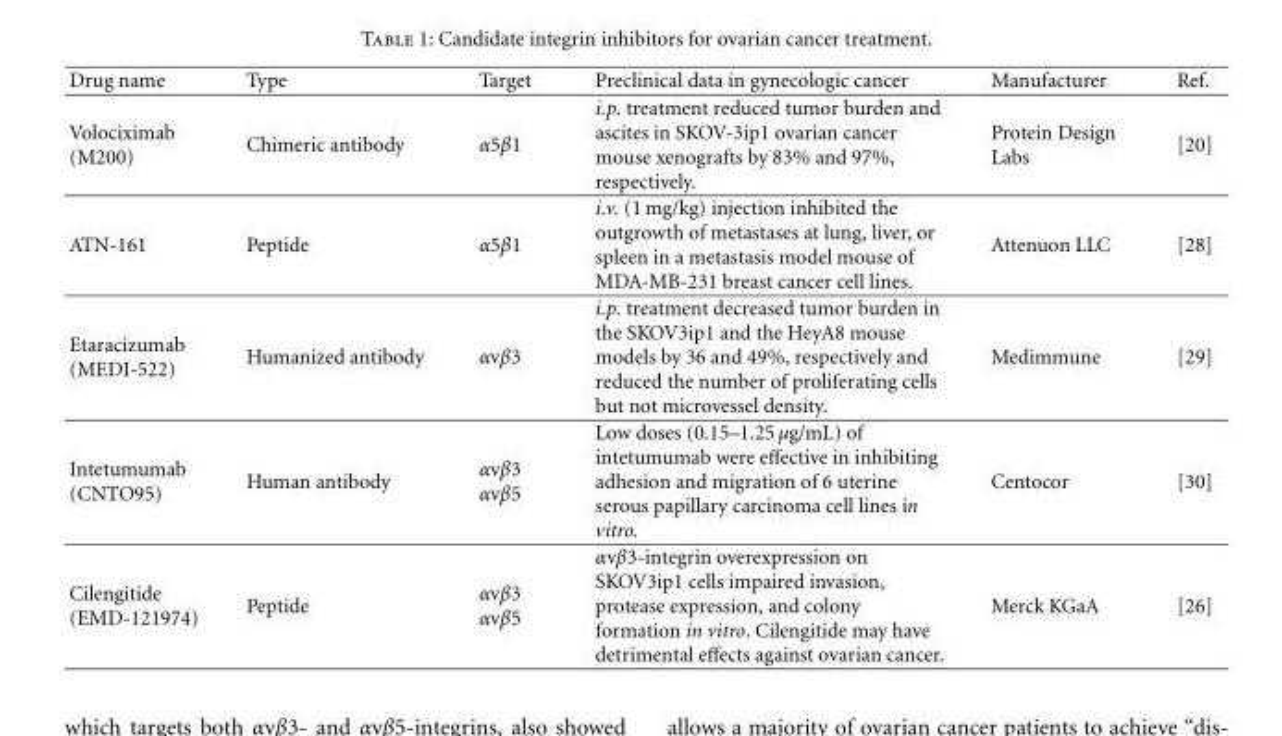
<table><thead><tr><td>Drug name</td><td>Type</td><td>Target</td><td>Preclinical data in gynecologic cancer</td><td>Manufacturer</td><td>Ref.</td></tr></thead><tbody><tr><td>Volociximab (M200)</td><td>Chimeric antibody</td><td>α5β1</td><td>i.p. treatment reduced tumor burden and ascites in SKOV-3ip1 ovarian cancer mouse xenografts by 83% and 97%, respectively.</td><td>Protein Design Labs</td><td>[20]</td></tr><tr><td>ATN-161</td><td>Peptide</td><td>α5β1</td><td>i.v. (1 mg/kg) injection inhibited the outgrowth of metastases at lung, liver, or spleen in a metastasis model mouse of MDA-MB-231 breast cancer cell lines.</td><td>Attenuon LLC</td><td>[28]</td></tr><tr><td>Etaracizumab (MEDI-522)</td><td>Humanized antibody</td><td>αvβ3</td><td>i.p. treatment decreased tumor burden in the SKOV3ip1 and the HeyA8 mouse models by 36 and 49%, respectively and reduced the number of proliferating cells but not microvessel density.</td><td>Medimmune</td><td>[29]</td></tr><tr><td>Intetumumab (CNTO95)</td><td>Human antibody</td><td>αvβ3 αvβ5</td><td>Low doses (0.15–1.25 μg/mL) of intetumumab were effective in inhibiting adhesion and migration of 6 uterine serous papillary carcinoma cell lines in vitro.</td><td>Centocor</td><td>[30]</td></tr><tr><td>Cilengitide (EMD-121974)</td><td>Peptide</td><td>αvβ3 αvβ5</td><td>αvβ3-integrin overexpression on SKOV3ip1 cells impaired invasion, protease expression, and colony formation in vitro. Cilengitide may have detrimental effects against ovarian cancer.</td><td>Merck KGaA</td><td>[26]</td></tr></tbody></table>